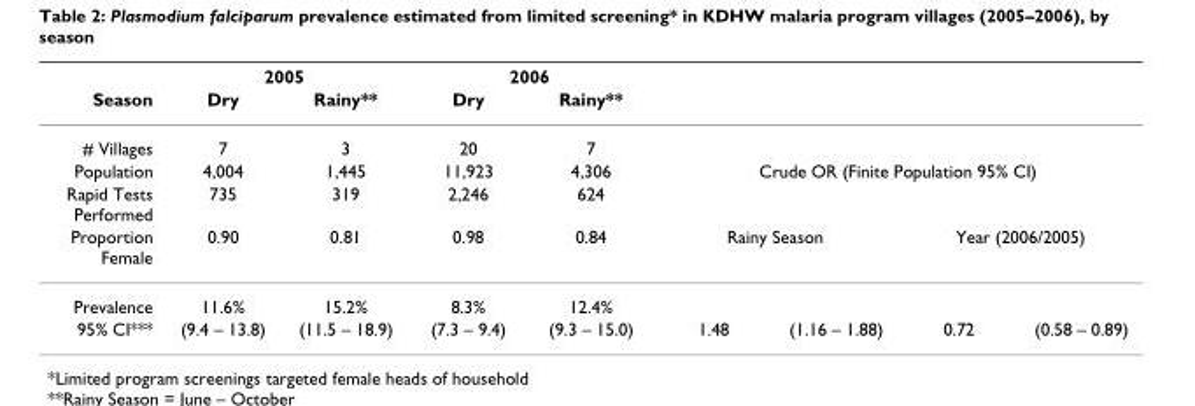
<table><thead><tr><td rowspan="2">Season</td><td colspan="2">2005</td><td colspan="2">2006</td><td rowspan="2"></td><td rowspan="2"></td><td rowspan="2"></td><td rowspan="2"></td></tr><tr><td>Dry</td><td>Rainy**</td><td>Dry</td><td>Rainy**</td></tr></thead><tbody><tr><td># Villages</td><td>7</td><td>3</td><td>20</td><td>7</td><td></td><td></td><td></td><td></td></tr><tr><td>Population</td><td>4,004</td><td>1,445</td><td>11,923</td><td>4,306</td><td colspan="4">Crude OR (Finite Population 95% CI)</td></tr><tr><td>Rapid Tests Performed</td><td>735</td><td>319</td><td>2,246</td><td>624</td><td></td><td></td><td></td><td></td></tr><tr><td>Proportion Female</td><td>0.90</td><td>0.81</td><td>0.98</td><td>0.84</td><td colspan="2">Rainy Season</td><td colspan="2">Year (2006/2005)</td></tr><tr><td>Prevalence</td><td>11.6%</td><td>15.2%</td><td>8.3%</td><td>12.4%</td><td></td><td></td><td></td><td></td></tr><tr><td>95% CI***</td><td>(9.4 – 13.8)</td><td>(11.5 – 18.9)</td><td>(7.3 – 9.4)</td><td>(9.3 – 15.0)</td><td>1.48</td><td>(1.16 – 1.88)</td><td>0.72</td><td>(0.58 – 0.89)</td></tr></tbody></table>